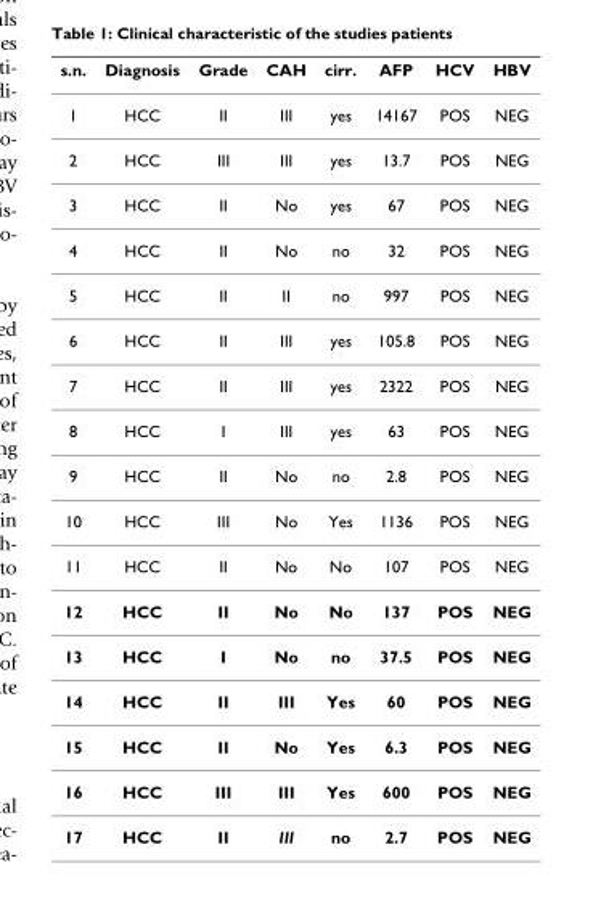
<table><thead><tr><td>s.n.</td><td>Diagnosis</td><td>Grade</td><td>CAH</td><td>cirr.</td><td>AFP</td><td>HCV</td><td>HBV</td></tr></thead><tbody><tr><td>1</td><td>HCC</td><td>II</td><td>III</td><td>yes</td><td>14167</td><td>POS</td><td>NEG</td></tr><tr><td>2</td><td>HCC</td><td>III</td><td>III</td><td>yes</td><td>13.7</td><td>POS</td><td>NEG</td></tr><tr><td>3</td><td>HCC</td><td>II</td><td>No</td><td>yes</td><td>67</td><td>POS</td><td>NEG</td></tr><tr><td>4</td><td>HCC</td><td>II</td><td>No</td><td>no</td><td>32</td><td>POS</td><td>NEG</td></tr><tr><td>5</td><td>HCC</td><td>II</td><td>II</td><td>no</td><td>997</td><td>POS</td><td>NEG</td></tr><tr><td>6</td><td>HCC</td><td>II</td><td>III</td><td>yes</td><td>105.8</td><td>POS</td><td>NEG</td></tr><tr><td>7</td><td>HCC</td><td>II</td><td>III</td><td>yes</td><td>2322</td><td>POS</td><td>NEG</td></tr><tr><td>8</td><td>HCC</td><td>I</td><td>III</td><td>yes</td><td>63</td><td>POS</td><td>NEG</td></tr><tr><td>9</td><td>HCC</td><td>II</td><td>No</td><td>no</td><td>2.8</td><td>POS</td><td>NEG</td></tr><tr><td>10</td><td>HCC</td><td>III</td><td>No</td><td>Yes</td><td>1136</td><td>POS</td><td>NEG</td></tr><tr><td>11</td><td>HCC</td><td>II</td><td>No</td><td>No</td><td>107</td><td>POS</td><td>NEG</td></tr><tr><td>12</td><td>HCC</td><td>II</td><td>No</td><td>No</td><td>137</td><td>POS</td><td>NEG</td></tr><tr><td>13</td><td>HCC</td><td>I</td><td>No</td><td>no</td><td>37.5</td><td>POS</td><td>NEG</td></tr><tr><td>14</td><td>HCC</td><td>II</td><td>III</td><td>Yes</td><td>60</td><td>POS</td><td>NEG</td></tr><tr><td>15</td><td>HCC</td><td>II</td><td>No</td><td>Yes</td><td>6.3</td><td>POS</td><td>NEG</td></tr><tr><td>16</td><td>HCC</td><td>III</td><td>III</td><td>Yes</td><td>600</td><td>POS</td><td>NEG</td></tr><tr><td>17</td><td>HCC</td><td>II</td><td>III</td><td>no</td><td>2.7</td><td>POS</td><td>NEG</td></tr></tbody></table>